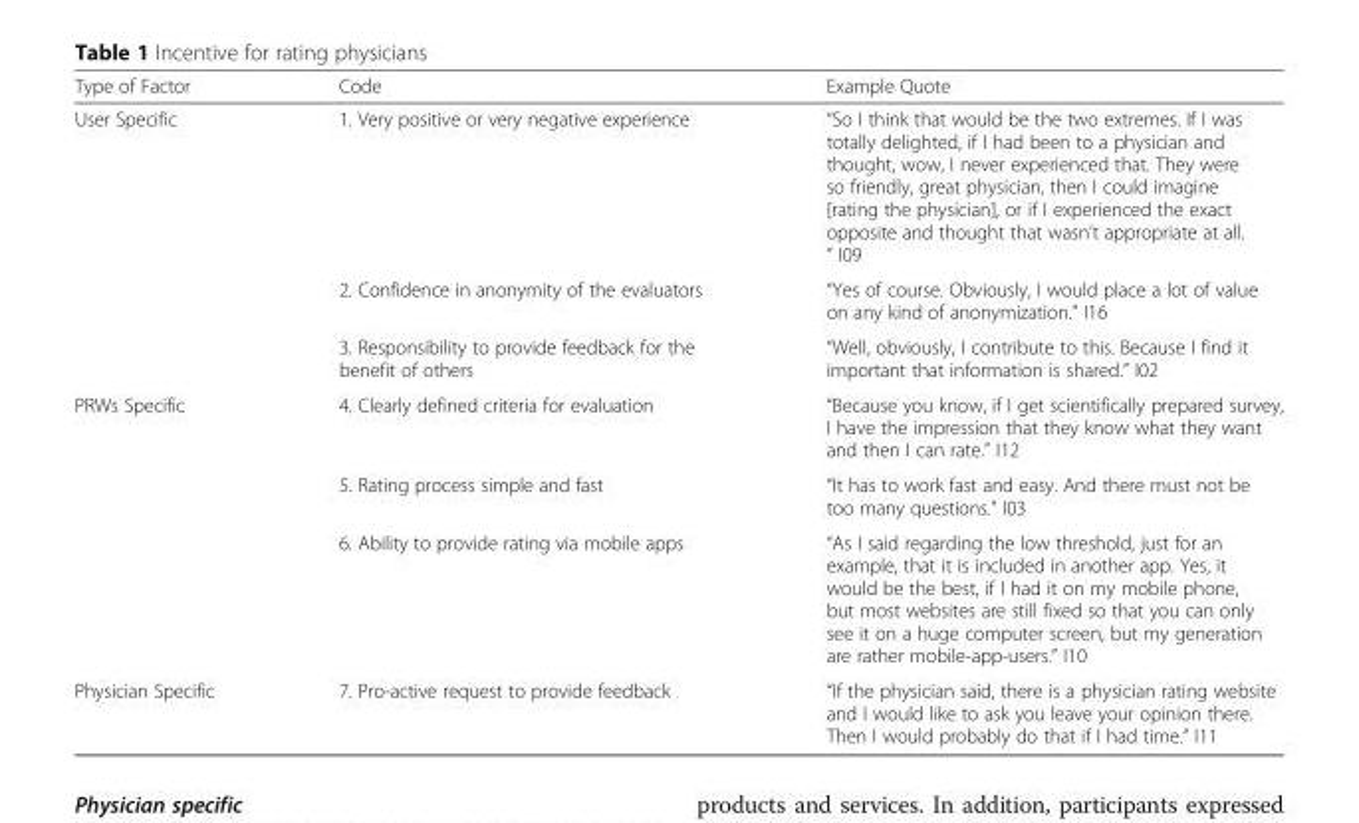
<table><thead><tr><td>Type of Factor</td><td>Code</td><td>Example Quote</td></tr></thead><tbody><tr><td rowspan="3">User Specific</td><td>1. Very positive or very negative experience</td><td>“So I think that would be the two extremes. If I was totally delighted, if I had been to a physician and thought, wow, I never experienced that. They were so friendly, great physician, then I could imagine [rating the physician], or if I experienced the exact opposite and thought that wasn’t appropriate at all. ” I09</td></tr><tr><td>2. Confidence in anonymity of the evaluators</td><td>“Yes of course. Obviously, I would place a lot of value on any kind of anonymization.” I16</td></tr><tr><td>3. Responsibility to provide feedback for the benefit of others</td><td>“Well, obviously, I contribute to this. Because I find it important that information is shared.” I02</td></tr><tr><td rowspan="3">PRWs Specific</td><td>4. Clearly defined criteria for evaluation</td><td>“Because you know, if I get scientifically prepared survey, I have the impression that they know what they want and then I can rate.” I12</td></tr><tr><td>5. Rating process simple and fast</td><td>“It has to work fast and easy. And there must not be too many questions.” I03</td></tr><tr><td>6. Ability to provide rating via mobile apps</td><td>“As I said regarding the low threshold, just for an example, that it is included in another app. Yes, it would be the best, if I had it on my mobile phone, but most websites are still fixed so that you can only see it on a huge computer screen, but my generation are rather mobile-app-users.” I10</td></tr><tr><td>Physician Specific</td><td>7. Pro-active request to provide feedback</td><td>“If the physician said, there is a physician rating website and I would like to ask you leave your opinion there. Then I would probably do that if I had time.” I11</td></tr></tbody></table>